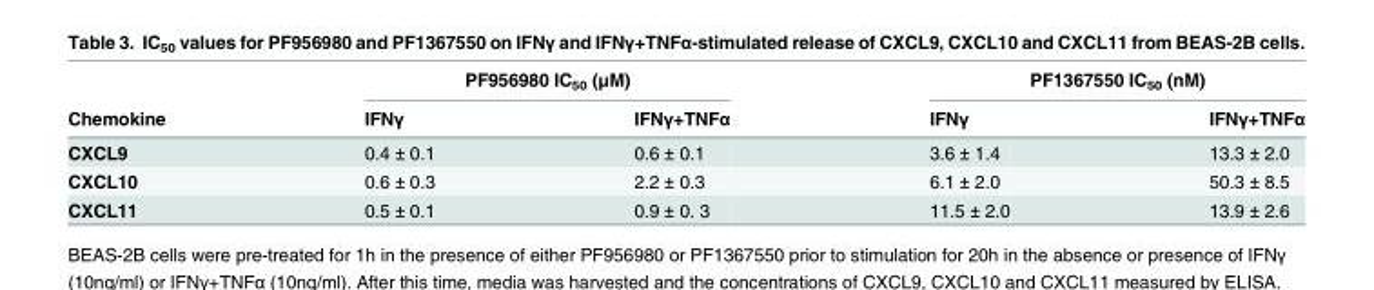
<table><thead><tr><td rowspan="2">Chemokine</td><td colspan="2">PF956980 IC<sub>50</sub> (μM)</td><td colspan="2">PF1367550 IC<sub>50</sub> (nM)</td></tr><tr><td>IFNγ</td><td>IFNγ+TNFα</td><td>IFNγ</td><td>IFNγ+TNFα</td></tr></thead><tbody><tr><td>CXCL9</td><td>0.4 ± 0.1</td><td>0.6 ± 0.1</td><td>3.6 ± 1.4</td><td>13.3 ± 2.0</td></tr><tr><td>CXCL10</td><td>0.6 ± 0.3</td><td>2.2 ± 0.3</td><td>6.1 ± 2.0</td><td>50.3 ± 8.5</td></tr><tr><td>CXCL11</td><td>0.5 ± 0.1</td><td>0.9 ± 0. 3</td><td>11.5 ± 2.0</td><td>13.9 ± 2.6</td></tr></tbody></table>